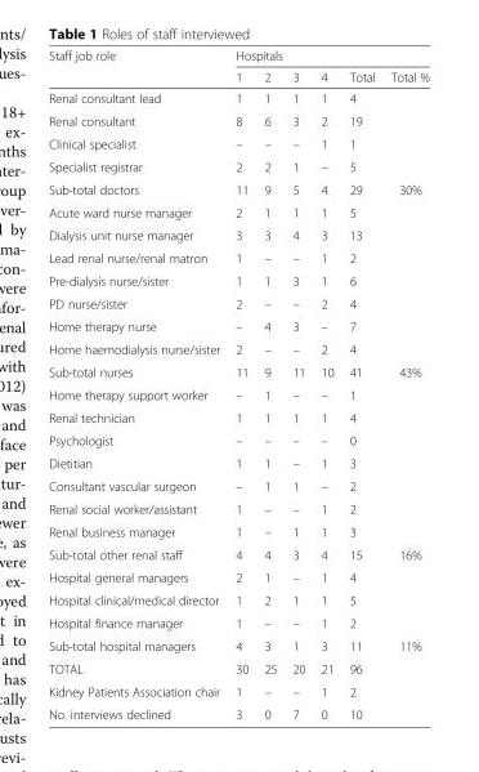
<table><thead><tr><td rowspan="2">Staff job role</td><td colspan="6">Hospitals</td></tr><tr><td>1</td><td>2</td><td>3</td><td>4</td><td>Total</td><td>Total %</td></tr></thead><tbody><tr><td>Renal consultant lead</td><td>1</td><td>1</td><td>1</td><td>1</td><td>4</td><td rowspan="4"></td></tr><tr><td>Renal consultant</td><td>8</td><td>6</td><td>3</td><td>2</td><td>19</td></tr><tr><td>Clinical specialist</td><td>–</td><td>–</td><td>–</td><td>1</td><td>1</td></tr><tr><td>Specialist registrar</td><td>2</td><td>2</td><td>1</td><td>–</td><td>5</td></tr><tr><td>Sub-total doctors</td><td>11</td><td>9</td><td>5</td><td>4</td><td>29</td><td>30%</td></tr><tr><td>Acute ward nurse manager</td><td>2</td><td>1</td><td>1</td><td>1</td><td>5</td><td rowspan="7"></td></tr><tr><td>Dialysis unit nurse manager</td><td>3</td><td>3</td><td>4</td><td>3</td><td>13</td></tr><tr><td>Lead renal nurse/renal matron</td><td>1</td><td>–</td><td>–</td><td>1</td><td>2</td></tr><tr><td>Pre-dialysis nurse/sister</td><td>1</td><td>1</td><td>3</td><td>1</td><td>6</td></tr><tr><td>PD nurse/sister</td><td>2</td><td>–</td><td>–</td><td>2</td><td>4</td></tr><tr><td>Home therapy nurse</td><td>–</td><td>4</td><td>3</td><td>–</td><td>7</td></tr><tr><td>Home haemodialysis nurse/sister</td><td>2</td><td>–</td><td>–</td><td>2</td><td>4</td></tr><tr><td>Sub-total nurses</td><td>11</td><td>9</td><td>11</td><td>10</td><td>41</td><td>43%</td></tr><tr><td>Home therapy support worker</td><td>–</td><td>1</td><td>–</td><td>–</td><td>1</td><td rowspan="7"></td></tr><tr><td>Renal technician</td><td>1</td><td>1</td><td>1</td><td>1</td><td>4</td></tr><tr><td>Psychologist</td><td>–</td><td>–</td><td>–</td><td>–</td><td>0</td></tr><tr><td>Dietitian</td><td>1</td><td>1</td><td>–</td><td>1</td><td>3</td></tr><tr><td>Consultant vascular surgeon</td><td>–</td><td>1</td><td>1</td><td>–</td><td>2</td></tr><tr><td>Renal social worker/assistant</td><td>1</td><td>–</td><td>–</td><td>1</td><td>2</td></tr><tr><td>Renal business manager</td><td>1</td><td>–</td><td>1</td><td>1</td><td>3</td></tr><tr><td>Sub-total other renal staff</td><td>4</td><td>4</td><td>3</td><td>4</td><td>15</td><td>16%</td></tr><tr><td>Hospital general managers</td><td>2</td><td>1</td><td>–</td><td>1</td><td>4</td><td rowspan="3"></td></tr><tr><td>Hospital clinical/medical director</td><td>1</td><td>2</td><td>1</td><td>1</td><td>5</td></tr><tr><td>Hospital finance manager</td><td>1</td><td>–</td><td>–</td><td>1</td><td>2</td></tr><tr><td>Sub-total hospital managers</td><td>4</td><td>3</td><td>1</td><td>3</td><td>11</td><td>11%</td></tr><tr><td>TOTAL</td><td>30</td><td>25</td><td>20</td><td>21</td><td>96</td><td></td></tr><tr><td>Kidney Patients Association chair</td><td>1</td><td>–</td><td>–</td><td>1</td><td>2</td><td></td></tr><tr><td>No. interviews declined</td><td>3</td><td>0</td><td>7</td><td>0</td><td>10</td><td></td></tr></tbody></table>